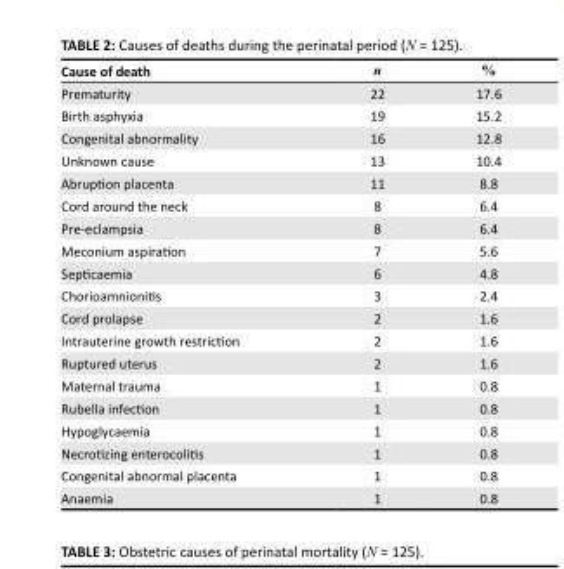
<table><thead><tr><td>Cause of death</td><td>n</td><td>%</td></tr></thead><tbody><tr><td>Prematurity</td><td>22</td><td>17.6</td></tr><tr><td>Birth asphyxia</td><td>19</td><td>15.2</td></tr><tr><td>Congenital abnormality</td><td>16</td><td>12.8</td></tr><tr><td>Unknown cause</td><td>13</td><td>10.4</td></tr><tr><td>Abruption placenta</td><td>11</td><td>8.8</td></tr><tr><td>Cord around the neck</td><td>8</td><td>6.4</td></tr><tr><td>Pre-eclampsia</td><td>8</td><td>6.4</td></tr><tr><td>Meconium aspiration</td><td>7</td><td>5.6</td></tr><tr><td>Septicaemia</td><td>6</td><td>4.8</td></tr><tr><td>Chorioamnionitis</td><td>3</td><td>2.4</td></tr><tr><td>Cord prolapse</td><td>2</td><td>1.6</td></tr><tr><td>Intrauterine growth restriction</td><td>2</td><td>1.6</td></tr><tr><td>Ruptured uterus</td><td>2</td><td>1.6</td></tr><tr><td>Maternal trauma</td><td>1</td><td>0.8</td></tr><tr><td>Rubella infection</td><td>1</td><td>0.8</td></tr><tr><td>Hypoglycaemia</td><td>1</td><td>0.8</td></tr><tr><td>Necrotizing enterocolitis</td><td>1</td><td>0.8</td></tr><tr><td>Congenital abnormal placenta</td><td>1</td><td>0.8</td></tr><tr><td>Anaemia</td><td>1</td><td>0.8</td></tr></tbody></table>